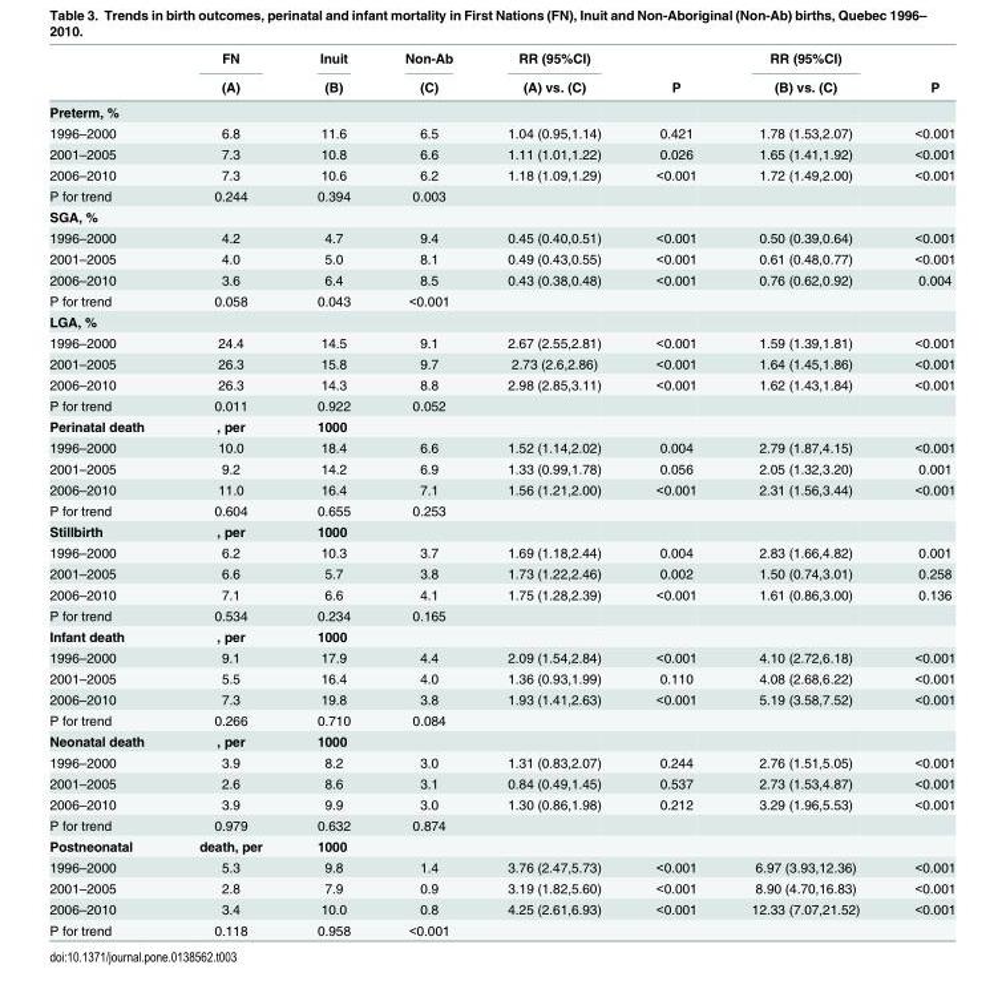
<table><thead><tr><td rowspan="2"></td><td rowspan="2">FN (A)</td><td rowspan="2">Inuit (B)</td><td rowspan="2">Non-Ab (C)</td><td rowspan="2">RR (95%CI) (A) vs. (C)</td><td rowspan="2">P</td><td rowspan="2">RR (95%CI) (B) vs. (C)</td><td rowspan="2">P</td></tr><tr></tr></thead><tbody><tr><td colspan="8">Preterm, %</td></tr><tr><td>1996–2000</td><td>6.8</td><td>11.6</td><td>6.5</td><td>1.04 (0.95,1.14)</td><td>0.421</td><td>1.78 (1.53,2.07)</td><td>&lt;0.001</td></tr><tr><td>2001–2005</td><td>7.3</td><td>10.8</td><td>6.6</td><td>1.11 (1.01,1.22)</td><td>0.026</td><td>1.65 (1.41,1.92)</td><td>&lt;0.001</td></tr><tr><td>2006–2010</td><td>7.3</td><td>10.6</td><td>6.2</td><td>1.18 (1.09,1.29)</td><td>&lt;0.001</td><td>1.72 (1.49,2.00)</td><td>&lt;0.001</td></tr><tr><td>P for trend</td><td>0.244</td><td>0.394</td><td>0.003</td><td></td><td></td><td></td><td></td></tr><tr><td colspan="8">SGA, %</td></tr><tr><td>1996–2000</td><td>4.2</td><td>4.7</td><td>9.4</td><td>0.45 (0.40,0.51)</td><td>&lt;0.001</td><td>0.50 (0.39,0.64)</td><td>&lt;0.001</td></tr><tr><td>2001–2005</td><td>4.0</td><td>5.0</td><td>8.1</td><td>0.49 (0.43,0.55)</td><td>&lt;0.001</td><td>0.61 (0.48,0.77)</td><td>&lt;0.001</td></tr><tr><td>2006–2010</td><td>3.6</td><td>6.4</td><td>8.5</td><td>0.43 (0.38,0.48)</td><td>&lt;0.001</td><td>0.76 (0.62,0.92)</td><td>0.004</td></tr><tr><td>P for trend</td><td>0.058</td><td>0.043</td><td>&lt;0.001</td><td></td><td></td><td></td><td></td></tr><tr><td colspan="8">LGA, %</td></tr><tr><td>1996–2000</td><td>24.4</td><td>14.5</td><td>9.1</td><td>2.67 (2.55,2.81)</td><td>&lt;0.001</td><td>1.59 (1.39,1.81)</td><td>&lt;0.001</td></tr><tr><td>2001–2005</td><td>26.3</td><td>15.8</td><td>9.7</td><td>2.73 (2.6,2.86)</td><td>&lt;0.001</td><td>1.64 (1.45,1.86)</td><td>&lt;0.001</td></tr><tr><td>2006–2010</td><td>26.3</td><td>14.3</td><td>8.8</td><td>2.98 (2.85,3.11)</td><td>&lt;0.001</td><td>1.62 (1.43,1.84)</td><td>&lt;0.001</td></tr><tr><td>P for trend</td><td>0.011</td><td>0.922</td><td>0.052</td><td></td><td></td><td></td><td></td></tr><tr><td>Perinatal death</td><td>, per</td><td>1000</td><td></td><td></td><td></td><td></td><td></td></tr><tr><td>1996–2000</td><td>10.0</td><td>18.4</td><td>6.6</td><td>1.52 (1.14,2.02)</td><td>0.004</td><td>2.79 (1.87,4.15)</td><td>&lt;0.001</td></tr><tr><td>2001–2005</td><td>9.2</td><td>14.2</td><td>6.9</td><td>1.33 (0.99,1.78)</td><td>0.056</td><td>2.05 (1.32,3.20)</td><td>0.001</td></tr><tr><td>2006–2010</td><td>11.0</td><td>16.4</td><td>7.1</td><td>1.56 (1.21,2.00)</td><td>&lt;0.001</td><td>2.31 (1.56,3.44)</td><td>&lt;0.001</td></tr><tr><td>P for trend</td><td>0.604</td><td>0.655</td><td>0.253</td><td></td><td></td><td></td><td></td></tr><tr><td>Stillbirth</td><td>, per</td><td>1000</td><td></td><td></td><td></td><td></td><td></td></tr><tr><td>1996–2000</td><td>6.2</td><td>10.3</td><td>3.7</td><td>1.69 (1.18,2.44)</td><td>0.004</td><td>2.83 (1.66,4.82)</td><td>0.001</td></tr><tr><td>2001–2005</td><td>6.6</td><td>5.7</td><td>3.8</td><td>1.73 (1.22,2.46)</td><td>0.002</td><td>1.50 (0.74,3.01)</td><td>0.258</td></tr><tr><td>2006–2010</td><td>7.1</td><td>6.6</td><td>4.1</td><td>1.75 (1.28,2.39)</td><td>&lt;0.001</td><td>1.61 (0.86,3.00)</td><td>0.136</td></tr><tr><td>P for trend</td><td>0.534</td><td>0.234</td><td>0.165</td><td></td><td></td><td></td><td></td></tr><tr><td>Infant death</td><td>, per</td><td>1000</td><td></td><td></td><td></td><td></td><td></td></tr><tr><td>1996–2000</td><td>9.1</td><td>17.9</td><td>4.4</td><td>2.09 (1.54,2.84)</td><td>&lt;0.001</td><td>4.10 (2.72,6.18)</td><td>&lt;0.001</td></tr><tr><td>2001–2005</td><td>5.5</td><td>16.4</td><td>4.0</td><td>1.36 (0.93,1.99)</td><td>0.110</td><td>4.08 (2.68,6.22)</td><td>&lt;0.001</td></tr><tr><td>2006–2010</td><td>7.3</td><td>19.8</td><td>3.8</td><td>1.93 (1.41,2.63)</td><td>&lt;0.001</td><td>5.19 (3.58,7.52)</td><td>&lt;0.001</td></tr><tr><td>P for trend</td><td>0.266</td><td>0.710</td><td>0.084</td><td></td><td></td><td></td><td></td></tr><tr><td>Neonatal death</td><td>, per</td><td>1000</td><td></td><td></td><td></td><td></td><td></td></tr><tr><td>1996–2000</td><td>3.9</td><td>8.2</td><td>3.0</td><td>1.31 (0.83,2.07)</td><td>0.244</td><td>2.76 (1.51,5.05)</td><td>&lt;0.001</td></tr><tr><td>2001–2005</td><td>2.6</td><td>8.6</td><td>3.1</td><td>0.84 (0.49,1.45)</td><td>0.537</td><td>2.73 (1.53,4.87)</td><td>&lt;0.001</td></tr><tr><td>2006–2010</td><td>3.9</td><td>9.9</td><td>3.0</td><td>1.30 (0.86,1.98)</td><td>0.212</td><td>3.29 (1.96,5.53)</td><td>&lt;0.001</td></tr><tr><td>P for trend</td><td>0.979</td><td>0.632</td><td>0.874</td><td></td><td></td><td></td><td></td></tr><tr><td>Postneonatal</td><td>death, per</td><td>1000</td><td></td><td></td><td></td><td></td><td></td></tr><tr><td>1996–2000</td><td>5.3</td><td>9.8</td><td>1.4</td><td>3.76 (2.47,5.73)</td><td>&lt;0.001</td><td>6.97 (3.93,12.36)</td><td>&lt;0.001</td></tr><tr><td>2001–2005</td><td>2.8</td><td>7.9</td><td>0.9</td><td>3.19 (1.82,5.60)</td><td>&lt;0.001</td><td>8.90 (4.70,16.83)</td><td>&lt;0.001</td></tr><tr><td>2006–2010</td><td>3.4</td><td>10.0</td><td>0.8</td><td>4.25 (2.61,6.93)</td><td>&lt;0.001</td><td>12.33 (7.07,21.52)</td><td>&lt;0.001</td></tr><tr><td>P for trend</td><td>0.118</td><td>0.958</td><td>&lt;0.001</td><td></td><td></td><td></td><td></td></tr></tbody></table>